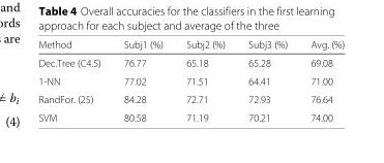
<table><thead><tr><td>Method</td><td>Subj1 (%)</td><td>Subj2 (%)</td><td>Subj3 (%)</td><td>Avg. (%)</td></tr></thead><tbody><tr><td>Dec.Tree (C4.5)</td><td>76.77</td><td>65.18</td><td>65.28</td><td>69.08</td></tr><tr><td>1-NN</td><td>77.02</td><td>71.51</td><td>64.41</td><td>71.00</td></tr><tr><td>RandFor. (25)</td><td>84.28</td><td>72.71</td><td>72.93</td><td>76.64</td></tr><tr><td>SVM</td><td>80.58</td><td>71.19</td><td>70.21</td><td>74.00</td></tr></tbody></table>